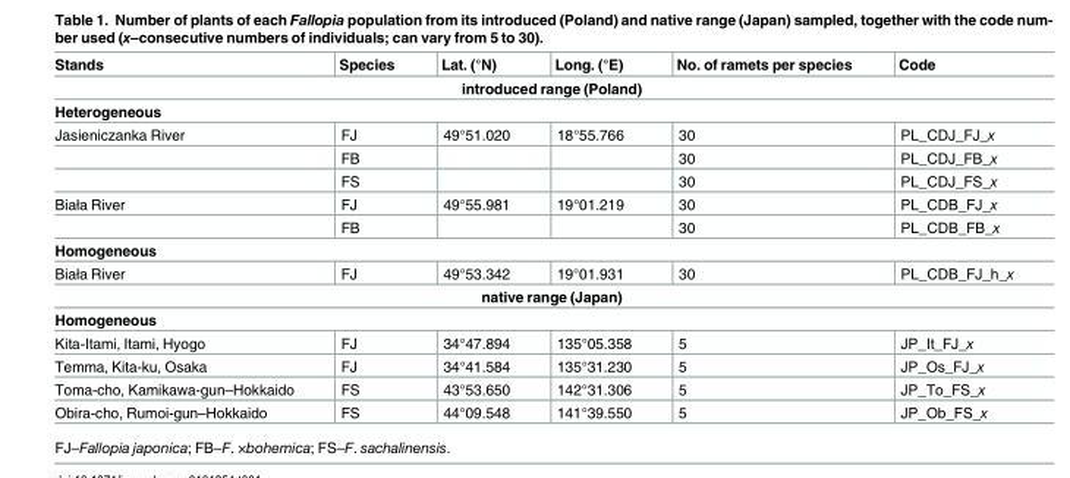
<table><thead><tr><td>Stands</td><td>Species</td><td>Lat. (°N)</td><td>Long. (°E)</td><td>No. of ramets per species</td><td>Code</td></tr></thead><tbody><tr><td colspan="6">introduced range (Poland)</td></tr><tr><td colspan="6">Heterogeneous</td></tr><tr><td rowspan="3">Jasieniczanka River</td><td>FJ</td><td>49°51.020</td><td>18°55.766</td><td>30</td><td>PL_CDJ_FJ_x</td></tr><tr><td>FB</td><td></td><td></td><td>30</td><td>PL_CDJ_FB_x</td></tr><tr><td>FS</td><td></td><td></td><td>30</td><td>PL_CDJ_FS_x</td></tr><tr><td rowspan="2">Biała River</td><td>FJ</td><td>49°55.981</td><td>19°01.219</td><td>30</td><td>PL_CDB_FJ_x</td></tr><tr><td>FB</td><td></td><td></td><td>30</td><td>PL_CDB_FB_x</td></tr><tr><td colspan="6">Homogeneous</td></tr><tr><td>Biała River</td><td>FJ</td><td>49°53.342</td><td>19°01.931</td><td>30</td><td>PL_CDB_FJ_h_x</td></tr><tr><td colspan="6">native range (Japan)</td></tr><tr><td colspan="6">Homogeneous</td></tr><tr><td>Kita-Itami, Itami, Hyogo</td><td>FJ</td><td>34°47.894</td><td>135°05.358</td><td>5</td><td>JP_It_FJ_x</td></tr><tr><td>Temma, Kita-ku, Osaka</td><td>FJ</td><td>34°41.584</td><td>135°31.230</td><td>5</td><td>JP_Os_FJ_x</td></tr><tr><td>Toma-cho, Kamikawa-gun–Hokkaido</td><td>FS</td><td>43°53.650</td><td>142°31.306</td><td>5</td><td>JP_To_FS_x</td></tr><tr><td>Obira-cho, Rumoi-gun–Hokkaido</td><td>FS</td><td>44°09.548</td><td>141°39.550</td><td>5</td><td>JP_Ob_FS_x</td></tr></tbody></table>